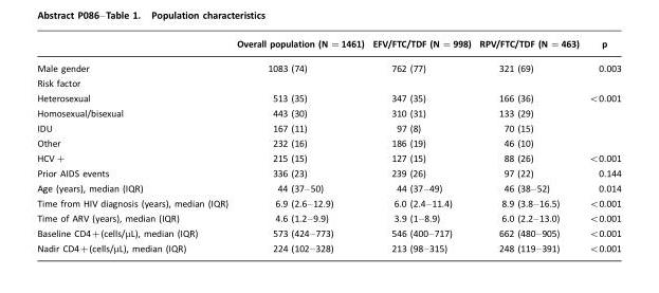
<table><thead><tr><td></td><td>Overall population (N =1461)</td><td>EFV/FTC/TDF (N =998)</td><td>RPV/FTC/TDF (N =463)</td><td>p</td></tr></thead><tbody><tr><td>Male gender</td><td>1083 (74)</td><td>762 (77)</td><td>321 (69)</td><td>0.003</td></tr><tr><td colspan="5">Risk factor</td></tr><tr><td>Heterosexual</td><td>513 (35)</td><td>347 (35)</td><td>166 (36)</td><td>&lt;0.001</td></tr><tr><td>Homosexual/bisexual</td><td>443 (30)</td><td>310 (31)</td><td>133 (29)</td><td></td></tr><tr><td>IDU</td><td>167 (11)</td><td>97 (8)</td><td>70 (15)</td><td></td></tr><tr><td>Other</td><td>232 (16)</td><td>186 (19)</td><td>46 (10)</td><td></td></tr><tr><td>HCV+</td><td>215 (15)</td><td>127 (15)</td><td>88 (26)</td><td>&lt;0.001</td></tr><tr><td>Prior AIDS events</td><td>336 (23)</td><td>239 (26)</td><td>97 (22)</td><td>0.144</td></tr><tr><td>Age (years), median (IQR)</td><td>44 (37–50)</td><td>44 (37–49)</td><td>46 (38–52)</td><td>0.014</td></tr><tr><td>Time from HIV diagnosis (years), median (IQR)</td><td>6.9 (2.6–12.9)</td><td>6.0 (2.4–11.4)</td><td>8.9 (3.8–16.5)</td><td>&lt;0.001</td></tr><tr><td>Time of ARV (years), median (IQR)</td><td>4.6 (1.2–9.9)</td><td>3.9 (1–8.9)</td><td>6.0 (2.2–13.0)</td><td>&lt;0.001</td></tr><tr><td>Baseline CD4+(cells/µL), median (IQR)</td><td>573 (424–773)</td><td>546 (400–717)</td><td>662 (480–905)</td><td>&lt;0.001</td></tr><tr><td>Nadir CD4+(cells/µL), median (IQR)</td><td>224 (102–328)</td><td>213 (98–315)</td><td>248 (119–391)</td><td>&lt;0.001</td></tr></tbody></table>